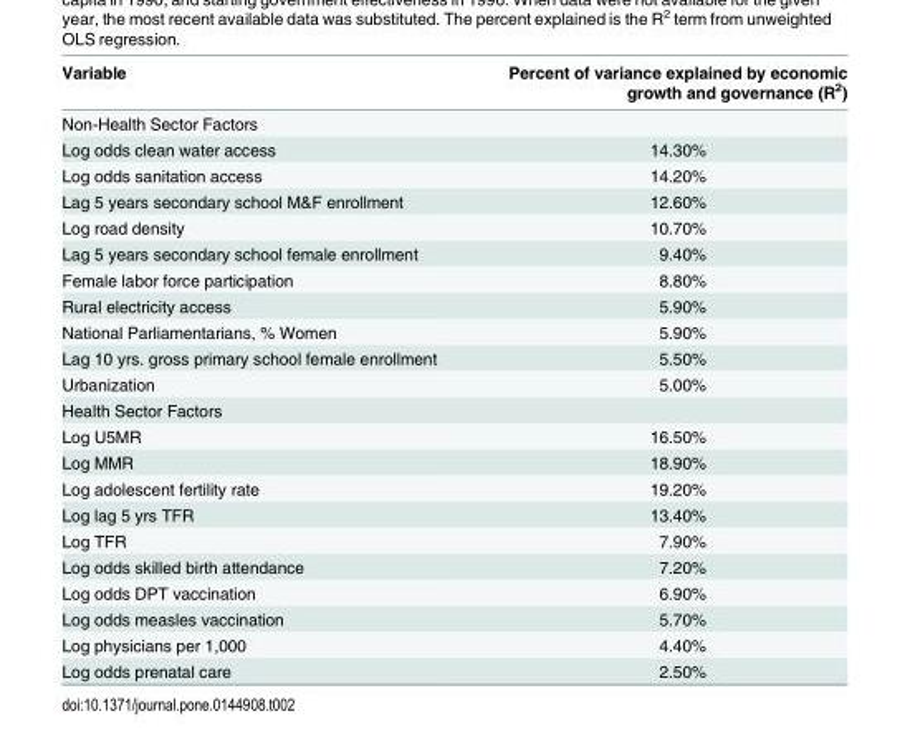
<table><thead><tr><td>Variable</td><td>Percent of variance explained by economic growth and governance (R<sup>2</sup>)</td></tr></thead><tbody><tr><td colspan="2">Non-Health Sector Factors</td></tr><tr><td>Log odds clean water access</td><td>14.30%</td></tr><tr><td>Log odds sanitation access</td><td>14.20%</td></tr><tr><td>Lag 5 years secondary school M&amp;F enrollment</td><td>12.60%</td></tr><tr><td>Log road density</td><td>10.70%</td></tr><tr><td>Lag 5 years secondary school female enrollment</td><td>9.40%</td></tr><tr><td>Female labor force participation</td><td>8.80%</td></tr><tr><td>Rural electricity access</td><td>5.90%</td></tr><tr><td>National Parliamentarians, % Women</td><td>5.90%</td></tr><tr><td>Lag 10 yrs. gross primary school female enrollment</td><td>5.50%</td></tr><tr><td>Urbanization</td><td>5.00%</td></tr><tr><td colspan="2">Health Sector Factors</td></tr><tr><td>Log U5MR</td><td>16.50%</td></tr><tr><td>Log MMR</td><td>18.90%</td></tr><tr><td>Log adolescent fertility rate</td><td>19.20%</td></tr><tr><td>Log lag 5 yrs TFR</td><td>13.40%</td></tr><tr><td>Log TFR</td><td>7.90%</td></tr><tr><td>Log odds skilled birth attendance</td><td>7.20%</td></tr><tr><td>Log odds DPT vaccination</td><td>6.90%</td></tr><tr><td>Log odds measles vaccination</td><td>5.70%</td></tr><tr><td>Log physicians per 1,000</td><td>4.40%</td></tr><tr><td>Log odds prenatal care</td><td>2.50%</td></tr></tbody></table>